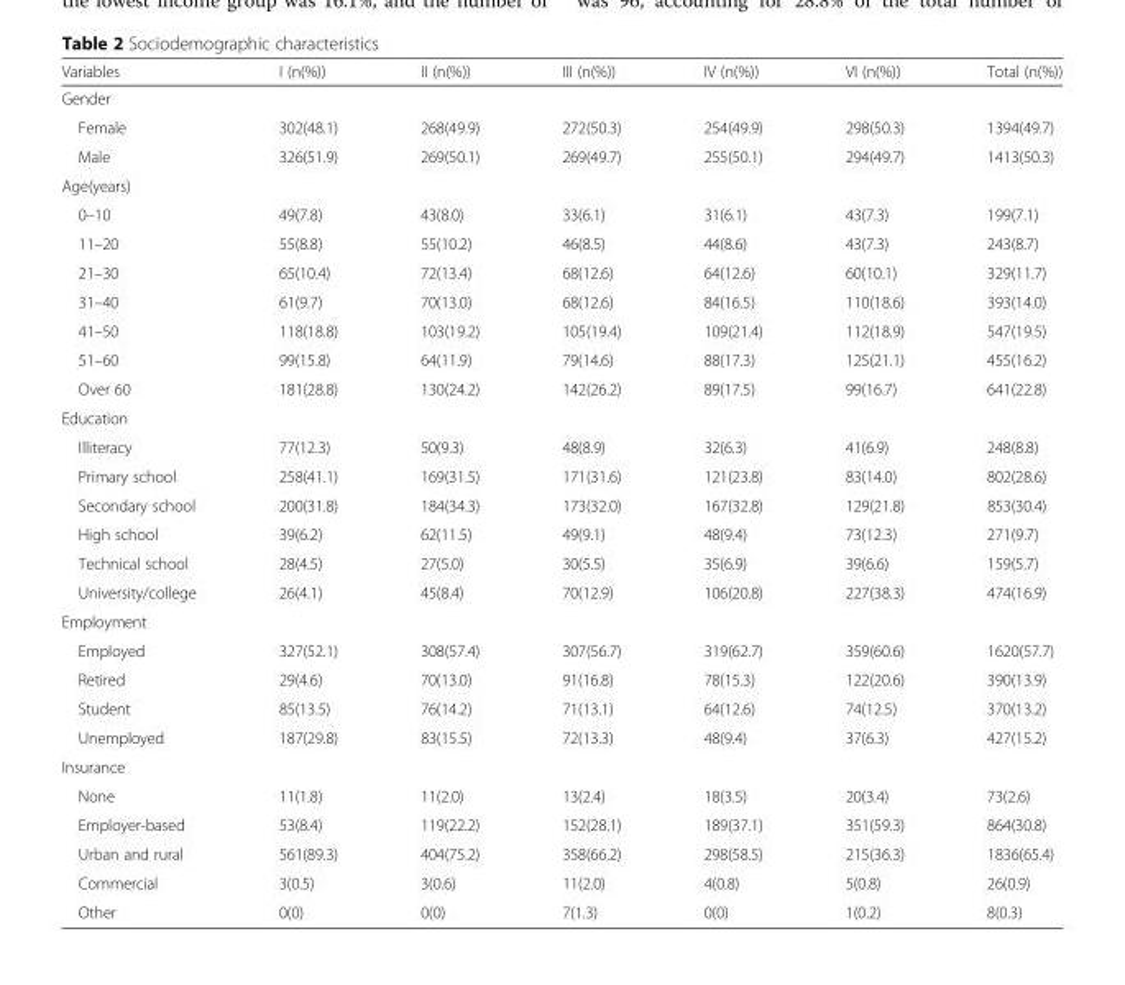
<table><thead><tr><td>Variables</td><td>I (n(%))</td><td>II (n(%))</td><td>III (n(%))</td><td>IV (n(%))</td><td>VI (n(%))</td><td>Total (n(%))</td></tr></thead><tbody><tr><td colspan="7">Gender</td></tr><tr><td>Female</td><td>302(48.1)</td><td>268(49.9)</td><td>272(50.3)</td><td>254(49.9)</td><td>298(50.3)</td><td>1394(49.7)</td></tr><tr><td>Male</td><td>326(51.9)</td><td>269(50.1)</td><td>269(49.7)</td><td>255(50.1)</td><td>294(49.7)</td><td>1413(50.3)</td></tr><tr><td colspan="7">Age(years)</td></tr><tr><td>0–10</td><td>49(7.8)</td><td>43(8.0)</td><td>33(6.1)</td><td>31(6.1)</td><td>43(7.3)</td><td>199(7.1)</td></tr><tr><td>11–20</td><td>55(8.8)</td><td>55(10.2)</td><td>46(8.5)</td><td>44(8.6)</td><td>43(7.3)</td><td>243(8.7)</td></tr><tr><td>21–30</td><td>65(10.4)</td><td>72(13.4)</td><td>68(12.6)</td><td>64(12.6)</td><td>60(10.1)</td><td>329(11.7)</td></tr><tr><td>31–40</td><td>61(9.7)</td><td>70(13.0)</td><td>68(12.6)</td><td>84(16.5)</td><td>110(18.6)</td><td>393(14.0)</td></tr><tr><td>41–50</td><td>118(18.8)</td><td>103(19.2)</td><td>105(19.4)</td><td>109(21.4)</td><td>112(18.9)</td><td>547(19.5)</td></tr><tr><td>51–60</td><td>99(15.8)</td><td>64(11.9)</td><td>79(14.6)</td><td>88(17.3)</td><td>125(21.1)</td><td>455(16.2)</td></tr><tr><td>Over 60</td><td>181(28.8)</td><td>130(24.2)</td><td>142(26.2)</td><td>89(17.5)</td><td>99(16.7)</td><td>641(22.8)</td></tr><tr><td colspan="7">Education</td></tr><tr><td>Illiteracy</td><td>77(12.3)</td><td>50(9.3)</td><td>48(8.9)</td><td>32(6.3)</td><td>41(6.9)</td><td>248(8.8)</td></tr><tr><td>Primary school</td><td>258(41.1)</td><td>169(31.5)</td><td>171(31.6)</td><td>121(23.8)</td><td>83(14.0)</td><td>802(28.6)</td></tr><tr><td>Secondary school</td><td>200(31.8)</td><td>184(34.3)</td><td>173(32.0)</td><td>167(32.8)</td><td>129(21.8)</td><td>853(30.4)</td></tr><tr><td>High school</td><td>39(6.2)</td><td>62(11.5)</td><td>49(9.1)</td><td>48(9.4)</td><td>73(12.3)</td><td>271(9.7)</td></tr><tr><td>Technical school</td><td>28(4.5)</td><td>27(5.0)</td><td>30(5.5)</td><td>35(6.9)</td><td>39(6.6)</td><td>159(5.7)</td></tr><tr><td>University/college</td><td>26(4.1)</td><td>45(8.4)</td><td>70(12.9)</td><td>106(20.8)</td><td>227(38.3)</td><td>474(16.9)</td></tr><tr><td colspan="7">Employment</td></tr><tr><td>Employed</td><td>327(52.1)</td><td>308(57.4)</td><td>307(56.7)</td><td>319(62.7)</td><td>359(60.6)</td><td>1620(57.7)</td></tr><tr><td>Retired</td><td>29(4.6)</td><td>70(13.0)</td><td>91(16.8)</td><td>78(15.3)</td><td>122(20.6)</td><td>390(13.9)</td></tr><tr><td>Student</td><td>85(13.5)</td><td>76(14.2)</td><td>71(13.1)</td><td>64(12.6)</td><td>74(12.5)</td><td>370(13.2)</td></tr><tr><td>Unemployed</td><td>187(29.8)</td><td>83(15.5)</td><td>72(13.3)</td><td>48(9.4)</td><td>37(6.3)</td><td>427(15.2)</td></tr><tr><td colspan="7">Insurance</td></tr><tr><td>None</td><td>11(1.8)</td><td>11(2.0)</td><td>13(2.4)</td><td>18(3.5)</td><td>20(3.4)</td><td>73(2.6)</td></tr><tr><td>Employer-based</td><td>53(8.4)</td><td>119(22.2)</td><td>152(28.1)</td><td>189(37.1)</td><td>351(59.3)</td><td>864(30.8)</td></tr><tr><td>Urban and rural</td><td>561(89.3)</td><td>404(75.2)</td><td>358(66.2)</td><td>298(58.5)</td><td>215(36.3)</td><td>1836(65.4)</td></tr><tr><td>Commercial</td><td>3(0.5)</td><td>3(0.6)</td><td>11(2.0)</td><td>4(0.8)</td><td>5(0.8)</td><td>26(0.9)</td></tr><tr><td>Other</td><td>0(0)</td><td>0(0)</td><td>7(1.3)</td><td>0(0)</td><td>1(0.2)</td><td>8(0.3)</td></tr></tbody></table>